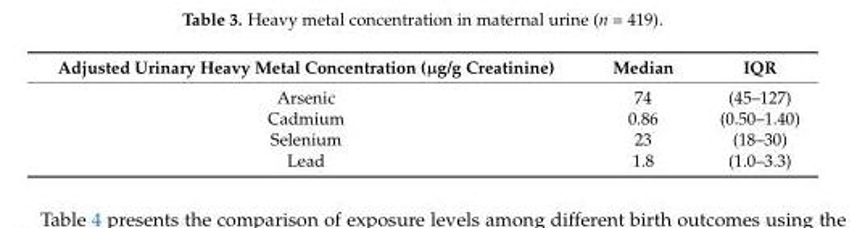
<table><thead><tr><td>Adjusted Urinary Heavy Metal Concentration (µg/g Creatinine)</td><td>Median</td><td>IQR</td></tr></thead><tbody><tr><td>Arsenic</td><td>74</td><td>(45–127)</td></tr><tr><td>Cadmium</td><td>0.86</td><td>(0.50–1.40)</td></tr><tr><td>Selenium</td><td>23</td><td>(18–30)</td></tr><tr><td>Lead</td><td>1.8</td><td>(1.0–3.3)</td></tr></tbody></table>